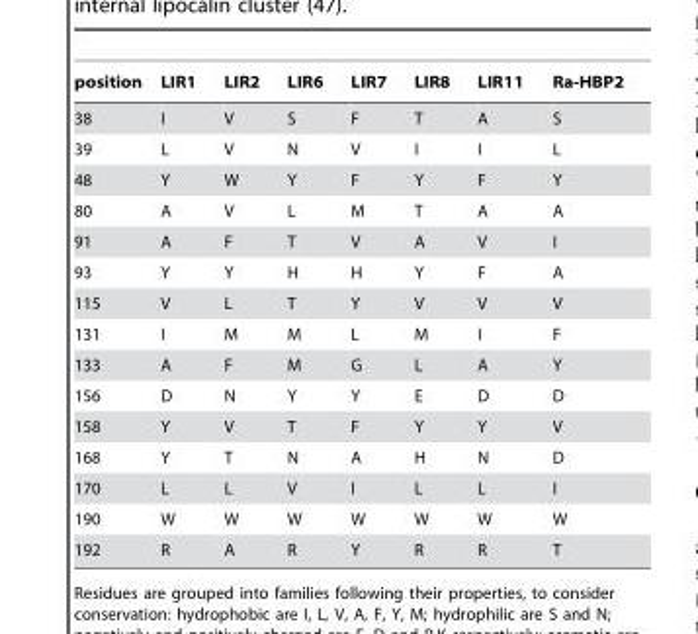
<table><thead><tr><td>position</td><td>LIR1</td><td>LIR2</td><td>LIR6</td><td>LIR7</td><td>LIR8</td><td>LIR11</td><td>Ra-HBP2</td></tr></thead><tbody><tr><td>38</td><td>I</td><td>V</td><td>S</td><td>F</td><td>T</td><td>A</td><td>S</td></tr><tr><td>39</td><td>L</td><td>V</td><td>N</td><td>V</td><td>I</td><td>I</td><td>L</td></tr><tr><td>48</td><td>Y</td><td>W</td><td>Y</td><td>F</td><td>Y</td><td>F</td><td>Y</td></tr><tr><td>80</td><td>A</td><td>V</td><td>L</td><td>M</td><td>T</td><td>A</td><td>A</td></tr><tr><td>91</td><td>A</td><td>F</td><td>T</td><td>V</td><td>A</td><td>V</td><td>I</td></tr><tr><td>93</td><td>Y</td><td>Y</td><td>H</td><td>H</td><td>Y</td><td>F</td><td>A</td></tr><tr><td>115</td><td>V</td><td>L</td><td>T</td><td>Y</td><td>V</td><td>V</td><td>V</td></tr><tr><td>131</td><td>I</td><td>M</td><td>M</td><td>L</td><td>M</td><td>I</td><td>F</td></tr><tr><td>133</td><td>A</td><td>F</td><td>M</td><td>G</td><td>L</td><td>A</td><td>Y</td></tr><tr><td>156</td><td>D</td><td>N</td><td>Y</td><td>Y</td><td>E</td><td>D</td><td>D</td></tr><tr><td>158</td><td>Y</td><td>V</td><td>T</td><td>F</td><td>Y</td><td>Y</td><td>V</td></tr><tr><td>168</td><td>Y</td><td>T</td><td>N</td><td>A</td><td>H</td><td>N</td><td>D</td></tr><tr><td>170</td><td>L</td><td>L</td><td>V</td><td>I</td><td>L</td><td>L</td><td>I</td></tr><tr><td>190</td><td>W</td><td>W</td><td>W</td><td>W</td><td>W</td><td>W</td><td>W</td></tr><tr><td>192</td><td>R</td><td>A</td><td>R</td><td>Y</td><td>R</td><td>R</td><td>T</td></tr></tbody></table>